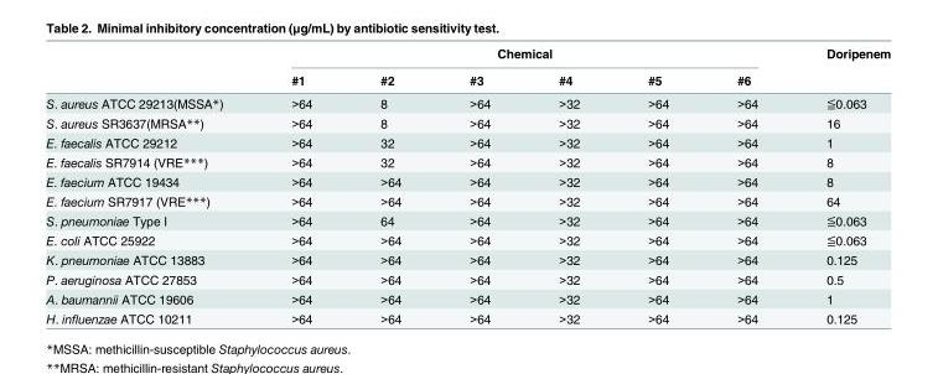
<table><thead><tr><td rowspan="2"></td><td colspan="6">Chemical</td><td rowspan="2">Doripenem</td></tr><tr><td>#1</td><td>#2</td><td>#3</td><td>#4</td><td>#5</td><td>#6</td></tr></thead><tbody><tr><td>S. aureus ATCC 29213(MSSA*)</td><td>&gt;64</td><td>8</td><td>&gt;64</td><td>&gt;32</td><td>&gt;64</td><td>&gt;64</td><td>≦0.063</td></tr><tr><td>S. aureus SR3637(MRSA**)</td><td>&gt;64</td><td>8</td><td>&gt;64</td><td>&gt;32</td><td>&gt;64</td><td>&gt;64</td><td>16</td></tr><tr><td>E. faecalis ATCC 29212</td><td>&gt;64</td><td>32</td><td>&gt;64</td><td>&gt;32</td><td>&gt;64</td><td>&gt;64</td><td>1</td></tr><tr><td>E. faecalis SR7914 (VRE***)</td><td>&gt;64</td><td>32</td><td>&gt;64</td><td>&gt;32</td><td>&gt;64</td><td>&gt;64</td><td>8</td></tr><tr><td>E. faecium ATCC 19434</td><td>&gt;64</td><td>&gt;64</td><td>&gt;64</td><td>&gt;32</td><td>&gt;64</td><td>&gt;64</td><td>8</td></tr><tr><td>E. faecium SR7917 (VRE***)</td><td>&gt;64</td><td>&gt;64</td><td>&gt;64</td><td>&gt;32</td><td>&gt;64</td><td>&gt;64</td><td>64</td></tr><tr><td>S. pneumoniae Type I</td><td>&gt;64</td><td>64</td><td>&gt;64</td><td>&gt;32</td><td>&gt;64</td><td>&gt;64</td><td>≦0.063</td></tr><tr><td>E. coli ATCC 25922</td><td>&gt;64</td><td>&gt;64</td><td>&gt;64</td><td>&gt;32</td><td>&gt;64</td><td>&gt;64</td><td>≦0.063</td></tr><tr><td>K. pneumoniae ATCC 13883</td><td>&gt;64</td><td>&gt;64</td><td>&gt;64</td><td>&gt;32</td><td>&gt;64</td><td>&gt;64</td><td>0.125</td></tr><tr><td>P. aeruginosa ATCC 27853</td><td>&gt;64</td><td>&gt;64</td><td>&gt;64</td><td>&gt;32</td><td>&gt;64</td><td>&gt;64</td><td>0.5</td></tr><tr><td>A. baumannii ATCC 19606</td><td>&gt;64</td><td>&gt;64</td><td>&gt;64</td><td>&gt;32</td><td>&gt;64</td><td>&gt;64</td><td>1</td></tr><tr><td>H. influenzae ATCC 10211</td><td>&gt;64</td><td>&gt;64</td><td>&gt;64</td><td>&gt;32</td><td>&gt;64</td><td>&gt;64</td><td>0.125</td></tr></tbody></table>